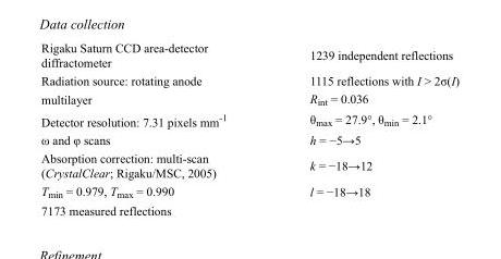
<table><tbody><tr><td>Rigaku Saturn CCD area-detector diffractometer</td><td>1239 independent reflections</td></tr><tr><td>Radiation source: rotating anode</td><td>1115 reflections with I &gt; 2σ(I)</td></tr><tr><td>multilayer</td><td>R<sub>int</sub> = 0.036</td></tr><tr><td>Detector resolution: 7.31 pixels mm<sup>-1</sup></td><td>θ<sub>max</sub> = 27.9°, θ<sub>min</sub> = 2.1°</td></tr><tr><td>ω and φ scans</td><td>h = −5→5</td></tr><tr><td>Absorption correction: multi-scan (CrystalClear; Rigaku/MSC, 2005)</td><td>k = −18→12</td></tr><tr><td>T<sub>min</sub> = 0.979, T<sub>max</sub> = 0.990</td><td>l = −18→18</td></tr><tr><td>7173 measured reflections</td><td></td></tr></tbody></table>